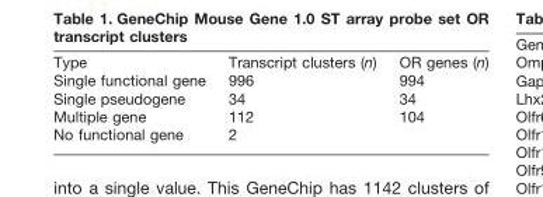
<table><thead><tr><td>Type</td><td>Transcript clusters (n)</td><td>OR genes (n)</td></tr></thead><tbody><tr><td>Single functional gene</td><td>996</td><td>994</td></tr><tr><td>Single pseudogene</td><td>34</td><td>34</td></tr><tr><td>Multiple gene</td><td>112</td><td>104</td></tr><tr><td>No functional gene</td><td>2</td><td></td></tr></tbody></table>